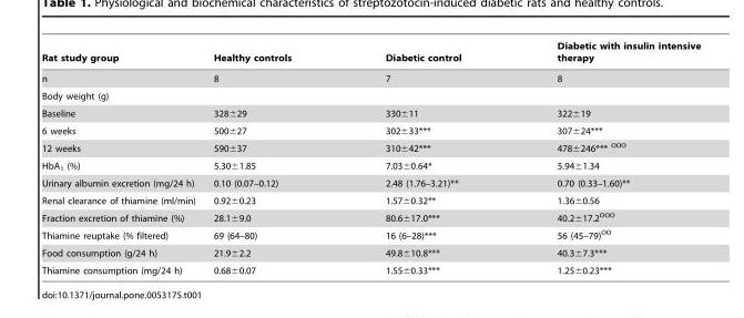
<table><thead><tr><td>Rat study group</td><td>Healthy controls</td><td>Diabetic control</td><td>Diabetic with insulin intensive therapy</td></tr></thead><tbody><tr><td>n</td><td>8</td><td>7</td><td>8</td></tr><tr><td colspan="4">Body weight (g)</td></tr><tr><td>Baseline</td><td>328±29</td><td>330±11</td><td>322±19</td></tr><tr><td>6 weeks</td><td>500±27</td><td>302±33***</td><td>307±24***</td></tr><tr><td>12 weeks</td><td>590±37</td><td>310±42***</td><td>478±246*** <sup>OOO</sup></td></tr><tr><td>HbA<sub>1</sub> (%)</td><td>5.30±1.85</td><td>7.03±0.64*</td><td>5.94±1.34</td></tr><tr><td>Urinary albumin excretion (mg/24 h)</td><td>0.10 (0.07–0.12)</td><td>2.48 (1.76–3.21)**</td><td>0.70 (0.33–1.60)**</td></tr><tr><td>Renal clearance of thiamine (ml/min)</td><td>0.92±0.23</td><td>1.57±0.32**</td><td>1.36±0.56</td></tr><tr><td>Fraction excretion of thiamine (%)</td><td>28.1±9.0</td><td>80.6±17.0***</td><td>40.2±17.2<sup>OOO</sup></td></tr><tr><td>Thiamine reuptake (% filtered)</td><td>69 (64–80)</td><td>16 (6–28)***</td><td>56 (45–79)<sup>OO</sup></td></tr><tr><td>Food consumption (g/24 h)</td><td>21.9±2.2</td><td>49.8±10.8***</td><td>40.3±7.3***</td></tr><tr><td>Thiamine consumption (mg/24 h)</td><td>0.68±0.07</td><td>1.55±0.33***</td><td>1.25±0.23***</td></tr></tbody></table>